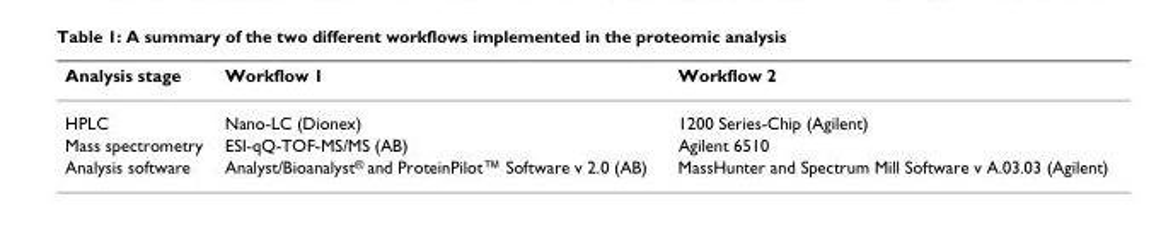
<table><thead><tr><td>Analysis stage</td><td>Workflow 1</td><td>Workflow 2</td></tr></thead><tbody><tr><td>HPLC</td><td>Nano-LC (Dionex)</td><td>1200 Series-Chip (Agilent)</td></tr><tr><td>Mass spectrometry</td><td>ESI-qQ-TOF-MS/MS (AB)</td><td>Agilent 6510</td></tr><tr><td>Analysis software</td><td>Analyst/Bioanalyst<sup>®</sup> and ProteinPilot™ Software v 2.0 (AB)</td><td>MassHunter and Spectrum Mill Software v A.03.03 (Agilent)</td></tr></tbody></table>